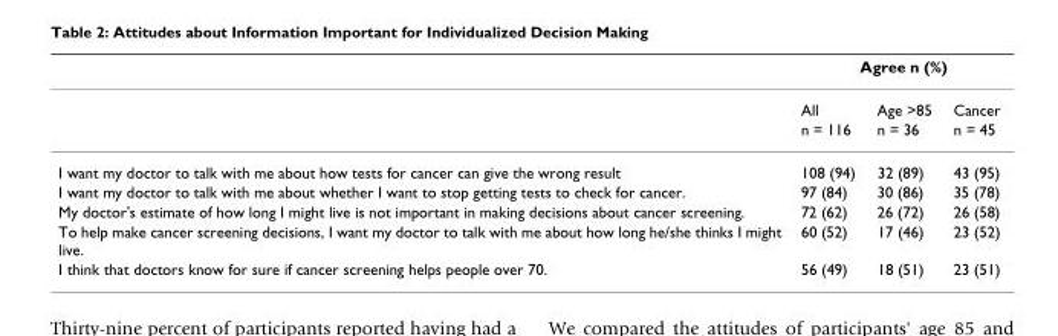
<table><thead><tr><td rowspan="2"></td><td colspan="3">Agree n (%)</td></tr><tr><td>All</td><td>Age &gt;85</td><td>Cancer</td></tr></thead><tbody><tr><td></td><td>n = 116</td><td>n = 36</td><td>n = 45</td></tr><tr><td>I want my doctor to talk with me about how tests for cancer can give the wrong result</td><td>108 (94)</td><td>32 (89)</td><td>43 (95)</td></tr><tr><td>I want my doctor to talk with me about whether I want to stop getting tests to check for cancer.</td><td>97 (84)</td><td>30 (86)</td><td>35 (78)</td></tr><tr><td>My doctor&#x27;s estimate of how long I might live is not important in making decisions about cancer screening.</td><td>72 (62)</td><td>26 (72)</td><td>26 (58)</td></tr><tr><td>To help make cancer screening decisions, I want my doctor to talk with me about how long he/she thinks I might live.</td><td>60 (52)</td><td>17 (46)</td><td>23 (52)</td></tr><tr><td>I think that doctors know for sure if cancer screening helps people over 70.</td><td>56 (49)</td><td>18 (51)</td><td>23 (51)</td></tr></tbody></table>